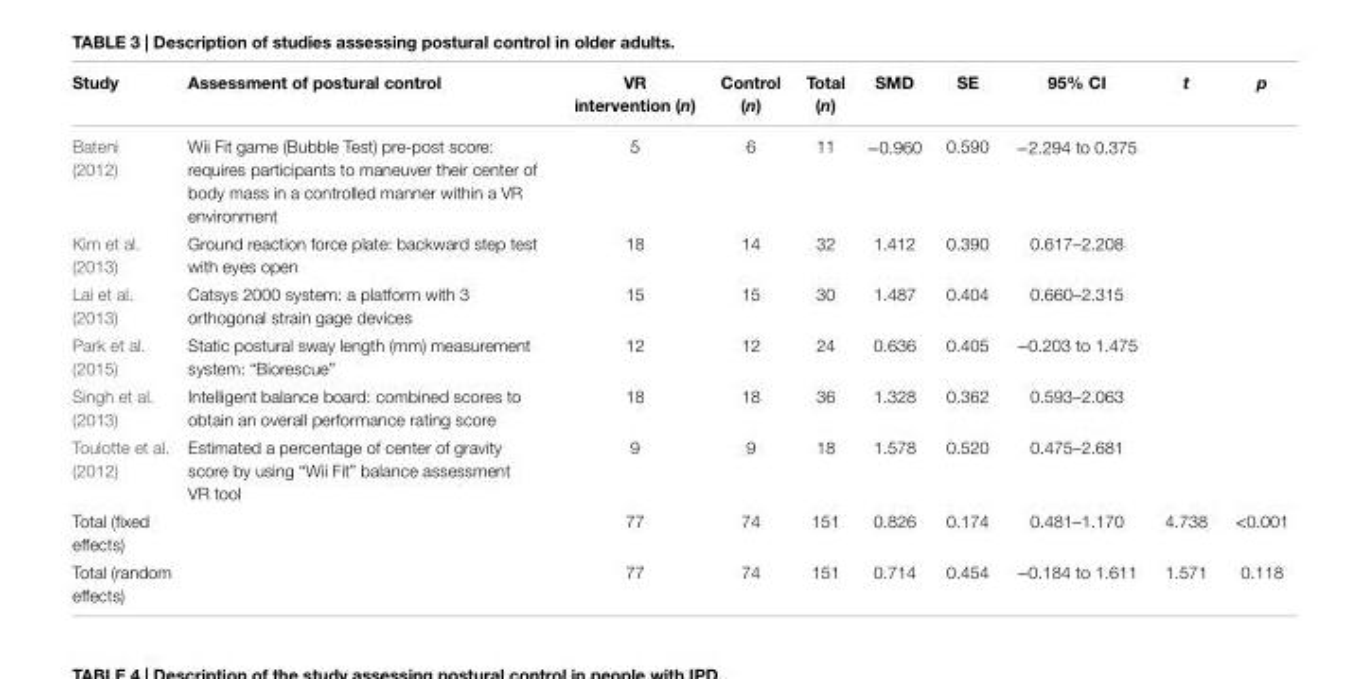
<table><thead><tr><td>Study</td><td>Assessment of postural control</td><td>vR intervention (n)</td><td>Control (n)</td><td>Total (n)</td><td>SMD</td><td>Se</td><td>95% Ci</td><td>t</td><td>p</td></tr></thead><tbody><tr><td>Bateni (2012)</td><td>Wii Fit game (Bubble Test) pre-post score: requires participants to maneuver their center of body mass in a controlled manner within a VR environment</td><td>5</td><td>6</td><td>11</td><td>−0.960</td><td>0.590</td><td>−2.294 to 0.375</td><td></td><td></td></tr><tr><td>Kim et al. (2013)</td><td>Ground reaction force plate: backward step test with eyes open</td><td>18</td><td>14</td><td>32</td><td>1.412</td><td>0.390</td><td>0.617–2.208</td><td></td><td></td></tr><tr><td>Lai et al. (2013)</td><td>Catsys 2000 system: a platform with 3 orthogonal strain gage devices</td><td>15</td><td>15</td><td>30</td><td>1.487</td><td>0.404</td><td>0.660–2.315</td><td></td><td></td></tr><tr><td>Park et al. (2015)</td><td>Static postural sway length (mm) measurement system: “Biorescue”</td><td>12</td><td>12</td><td>24</td><td>0.636</td><td>0.405</td><td>−0.203 to 1.475</td><td></td><td></td></tr><tr><td>Singh et al. (2013)</td><td>Intelligent balance board: combined scores to obtain an overall performance rating score</td><td>18</td><td>18</td><td>36</td><td>1.328</td><td>0.362</td><td>0.593–2.063</td><td></td><td></td></tr><tr><td>Toulotte et al. (2012)</td><td>Estimated a percentage of center of gravity score by using “Wii Fit” balance assessment VR tool</td><td>9</td><td>9</td><td>18</td><td>1.578</td><td>0.520</td><td>0.475–2.681</td><td></td><td></td></tr><tr><td>Total (fixed effects)</td><td></td><td>77</td><td>74</td><td>151</td><td>0.826</td><td>0.174</td><td>0.481–1.170</td><td>4.738</td><td>&lt;0.001</td></tr><tr><td>Total (random effects)</td><td></td><td>77</td><td>74</td><td>151</td><td>0.714</td><td>0.454</td><td>−0.184 to 1.611</td><td>1.571</td><td>0.118</td></tr></tbody></table>